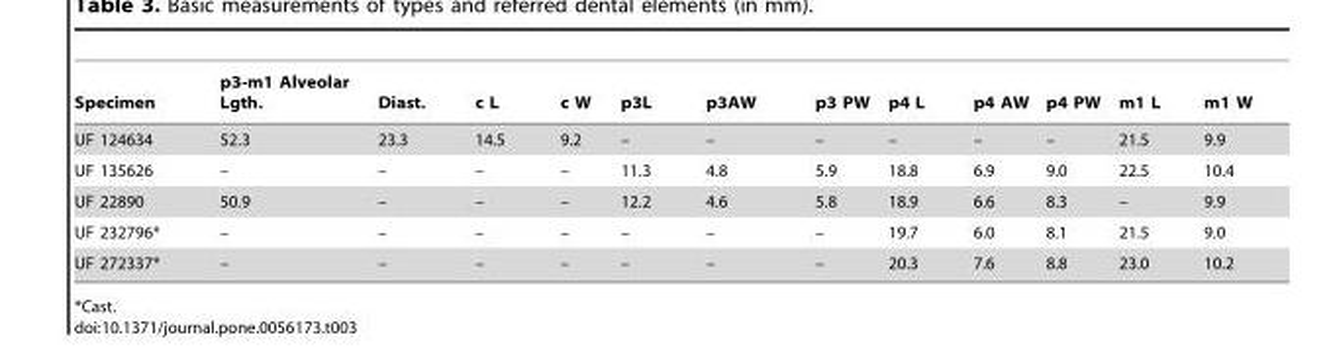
<table><thead><tr><td>Specimen</td><td>p3-m1 Alveolar Lgth.</td><td>Diast.</td><td>c L</td><td>c W</td><td>p3L</td><td>p3AW</td><td>p3 PW</td><td>p4 L</td><td>p4 AW</td><td>p4 PW</td><td>m1 L</td><td>m1 W</td></tr></thead><tbody><tr><td>UF 124634</td><td>52.3</td><td>23.3</td><td>14.5</td><td>9.2</td><td>–</td><td>–</td><td>–</td><td>–</td><td>–</td><td>–</td><td>21.5</td><td>9.9</td></tr><tr><td>UF 135626</td><td>–</td><td>–</td><td>–</td><td>–</td><td>11.3</td><td>4.8</td><td>5.9</td><td>18.8</td><td>6.9</td><td>9.0</td><td>22.5</td><td>10.4</td></tr><tr><td>UF 22890</td><td>50.9</td><td>–</td><td>–</td><td>–</td><td>12.2</td><td>4.6</td><td>5.8</td><td>18.9</td><td>6.6</td><td>8.3</td><td>–</td><td>9.9</td></tr><tr><td>UF 232796*</td><td>–</td><td>–</td><td>–</td><td>–</td><td>–</td><td>–</td><td>–</td><td>19.7</td><td>6.0</td><td>8.1</td><td>21.5</td><td>9.0</td></tr><tr><td>UF 272337*</td><td>–</td><td>–</td><td>–</td><td>–</td><td>–</td><td>–</td><td>–</td><td>20.3</td><td>7.6</td><td>8.8</td><td>23.0</td><td>10.2</td></tr></tbody></table>